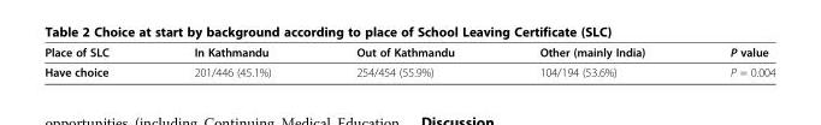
<table><thead><tr><td>Place of SLC</td><td>In Kathmandu</td><td>Out of Kathmandu</td><td>Other (mainly India)</td><td>P value</td></tr></thead><tbody><tr><td>Have choice</td><td>201/446 (45.1%)</td><td>254/454 (55.9%)</td><td>104/194 (53.6%)</td><td>P = 0.004</td></tr></tbody></table>